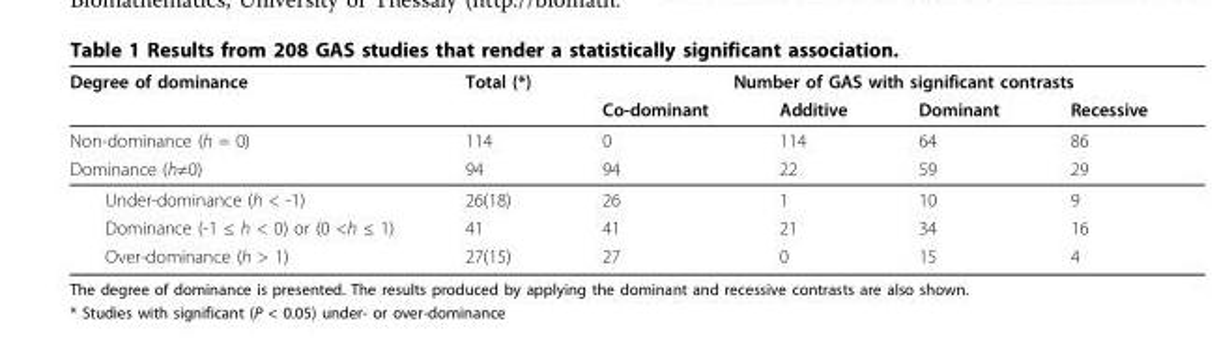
<table><thead><tr><td rowspan="2">Degree of dominance</td><td rowspan="2">Total (*)</td><td colspan="4">Number of GAS with significant contrasts</td></tr><tr><td>Co-dominant</td><td>Additive</td><td>Dominant</td><td>Recessive</td></tr></thead><tbody><tr><td>Non-dominance (h = 0)</td><td>114</td><td>0</td><td>114</td><td>64</td><td>86</td></tr><tr><td>Dominance (h≠0)</td><td>94</td><td>94</td><td>22</td><td>59</td><td>29</td></tr><tr><td>Under-dominance (h &lt; -1)</td><td>26(18)</td><td>26</td><td>1</td><td>10</td><td>9</td></tr><tr><td>Dominance (-1 ≤ h &lt; 0) or (0 &lt;h ≤ 1)</td><td>41</td><td>41</td><td>21</td><td>34</td><td>16</td></tr><tr><td>Over-dominance (h &gt; 1)</td><td>27(15)</td><td>27</td><td>0</td><td>15</td><td>4</td></tr></tbody></table>